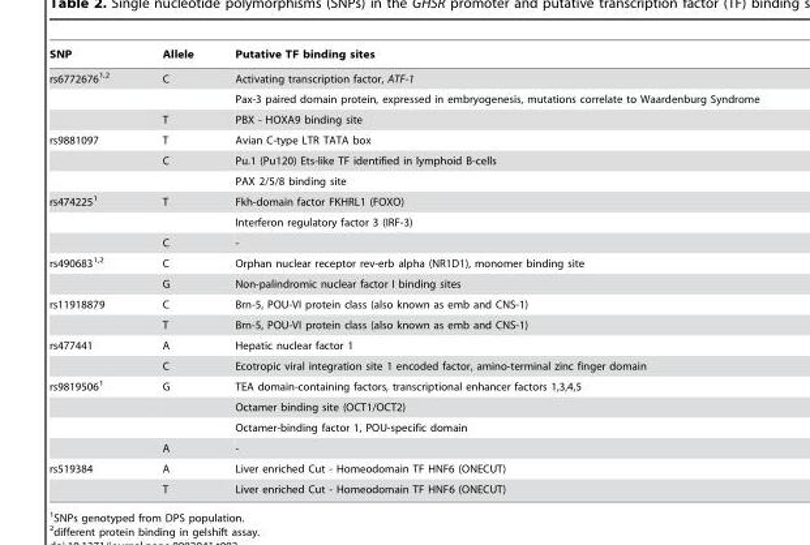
<table><thead><tr><td>SNP</td><td>Allele</td><td>Putative TF binding sites</td></tr></thead><tbody><tr><td rowspan="3">rs6772676<sup>1,</sup>2</td><td>C</td><td>Activating transcription factor, ATF-1</td></tr><tr><td></td><td>Pax-3 paired domain protein, expressed in embryogenesis, mutations correlate to Waardenburg Syndrome</td></tr><tr><td>T</td><td>PBX - HOXA9 binding site</td></tr><tr><td rowspan="3">rs9881097</td><td>T</td><td>Avian C-type LTR TATA box</td></tr><tr><td>C</td><td>Pu.1 (Pu120) Ets-like TF identified in lymphoid B-cells</td></tr><tr><td></td><td>PAX 2/5/8 binding site</td></tr><tr><td rowspan="3">rs474225<sup>1</sup></td><td>T</td><td>Fkh-domain factor FKHRL1 (FOXO)</td></tr><tr><td></td><td>Interferon regulatory factor 3 (IRF-3)</td></tr><tr><td>C</td><td>-</td></tr><tr><td rowspan="2">rs490683<sup>1,</sup>2</td><td>C</td><td>Orphan nuclear receptor rev-erb alpha (NR1D1), monomer binding site</td></tr><tr><td>G</td><td>Non-palindromic nuclear factor I binding sites</td></tr><tr><td rowspan="2">rs11918879</td><td>C</td><td>Brn-5, POU-VI protein class (also known as emb and CNS-1)</td></tr><tr><td>T</td><td>Brn-5, POU-VI protein class (also known as emb and CNS-1)</td></tr><tr><td rowspan="2">rs477441</td><td>A</td><td>Hepatic nuclear factor 1</td></tr><tr><td>C</td><td>Ecotropic viral integration site 1 encoded factor, amino-terminal zinc finger domain</td></tr><tr><td rowspan="4">rs9819506<sup>1</sup></td><td>G</td><td>TEA domain-containing factors, transcriptional enhancer factors 1,3,4,5</td></tr><tr><td></td><td>Octamer binding site (OCT1/OCT2)</td></tr><tr><td></td><td>Octamer-binding factor 1, POU-specific domain</td></tr><tr><td>A</td><td>-</td></tr><tr><td rowspan="2">rs519384</td><td>A</td><td>Liver enriched Cut - Homeodomain TF HNF6 (ONECUT)</td></tr><tr><td>T</td><td>Liver enriched Cut - Homeodomain TF HNF6 (ONECUT)</td></tr></tbody></table>